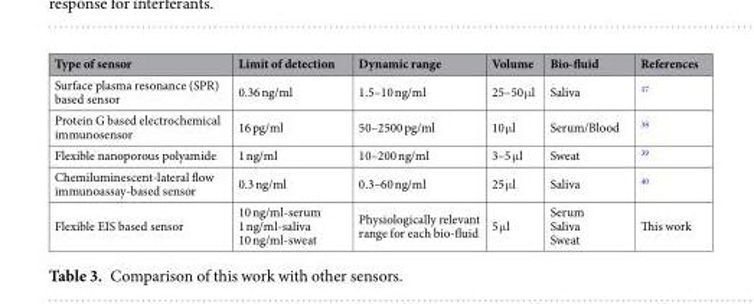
<table><thead><tr><td>Type of sensor</td><td>Limit of detection</td><td>Dynamic range</td><td>Volume</td><td>Bio-fluid</td><td>References</td></tr></thead><tbody><tr><td>Surface plasma resonance (SPR) based sensor</td><td>0.36 ng/ml</td><td>1.5–10 ng/ml</td><td>25–50 μl</td><td>Saliva</td><td><sup>37</sup></td></tr><tr><td>Protein G based electrochemical immunosensor</td><td>16 pg/ml</td><td>50–2500 pg/ml</td><td>10 μl</td><td>Serum/Blood</td><td><sup>38</sup></td></tr><tr><td>Flexible nanoporous polyamide</td><td>1 ng/ml</td><td>10–200 ng/ml</td><td>3–5 μl</td><td>Sweat</td><td><sup>39</sup></td></tr><tr><td>Chemiluminescent-lateral flow immunoassay-based sensor</td><td>0.3 ng/ml</td><td>0.3–60 ng/ml</td><td>25 μl</td><td>Saliva</td><td><sup>40</sup></td></tr><tr><td>Flexible EIS based sensor</td><td>10 ng/ml-serum 1 ng/ml-saliva 10 ng/ml-sweat</td><td>Physiologically relevant range for each bio-fluid</td><td>5 μl</td><td>Serum Saliva Sweat</td><td>This work</td></tr></tbody></table>